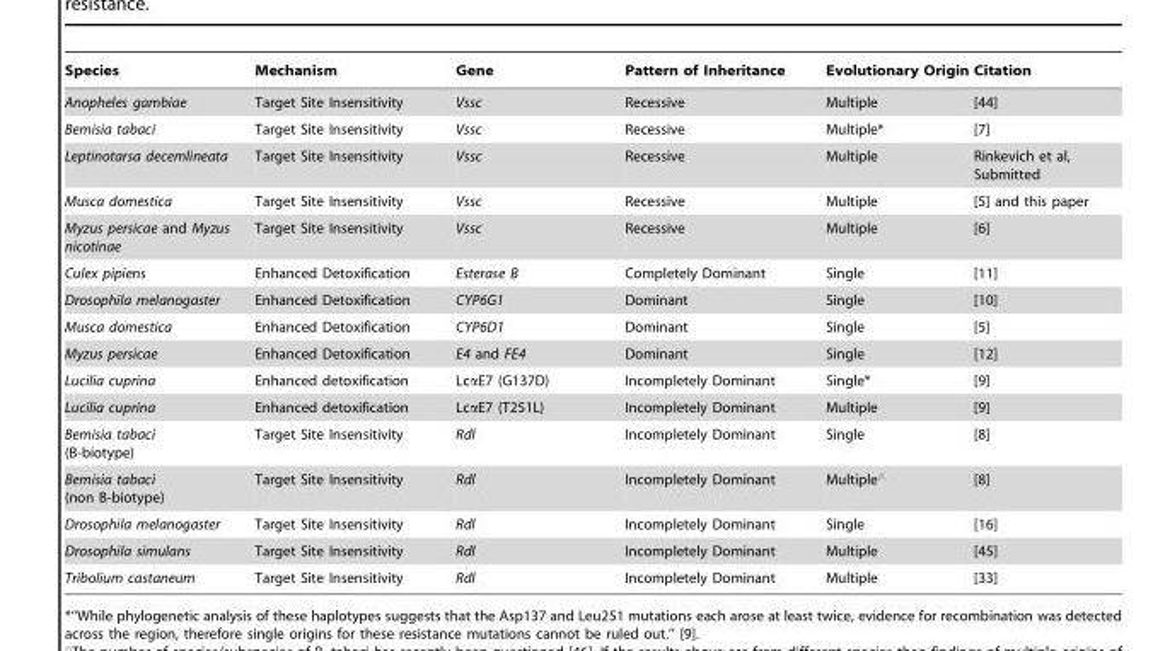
<table><thead><tr><td>Species</td><td>Mechanism</td><td>Gene</td><td>Pattern of Inheritance</td><td>Evolutionary Origin</td><td>Citation</td></tr></thead><tbody><tr><td>Anopheles gambiae</td><td>Target Site Insensitivity</td><td>Vssc</td><td>Recessive</td><td>Multiple</td><td>[44]</td></tr><tr><td>Bemisia tabaci</td><td>Target Site Insensitivity</td><td>Vssc</td><td>Recessive</td><td>Multiple*</td><td>[7]</td></tr><tr><td>Leptinotarsa decemlineata</td><td>Target Site Insensitivity</td><td>Vssc</td><td>Recessive</td><td>Multiple</td><td>Rinkevich et al, Submitted</td></tr><tr><td>Musca domestica</td><td>Target Site Insensitivity</td><td>Vssc</td><td>Recessive</td><td>Multiple</td><td>[5] and this paper</td></tr><tr><td>Myzus persicae and Myzus nicotinae</td><td>Target Site Insensitivity</td><td>Vssc</td><td>Recessive</td><td>Multiple</td><td>[6]</td></tr><tr><td>Culex pipiens</td><td>Enhanced Detoxification</td><td>Esterase B</td><td>Completely Dominant</td><td>Single</td><td>[11]</td></tr><tr><td>Drosophila melanogaster</td><td>Enhanced Detoxification</td><td>CYP6G1</td><td>Dominant</td><td>Single</td><td>[10]</td></tr><tr><td>Musca domestica</td><td>Enhanced Detoxification</td><td>CYP6D1</td><td>Dominant</td><td>Single</td><td>[5]</td></tr><tr><td>Myzus persicae</td><td>Enhanced Detoxification</td><td>E4 and FE4</td><td>Dominant</td><td>Single</td><td>[12]</td></tr><tr><td>Lucilia cuprina</td><td>Enhanced detoxification</td><td>LcαE7 (G137D)</td><td>Incompletely Dominant</td><td>Single*</td><td>[9]</td></tr><tr><td>Lucilia cuprina</td><td>Enhanced detoxification</td><td>LcαE7 (T251L)</td><td>Incompletely Dominant</td><td>Multiple</td><td>[9]</td></tr><tr><td>Bemisia tabaci (B-biotype)</td><td>Target Site Insensitivity</td><td>Rdl</td><td>Incompletely Dominant</td><td>Single</td><td>[8]</td></tr><tr><td>Bemisia tabaci (non B-biotype)</td><td>Target Site Insensitivity</td><td>Rdl</td><td>Incompletely Dominant</td><td>Multiple‘</td><td>[8]</td></tr><tr><td>Drosophila melanogaster</td><td>Target Site Insensitivity</td><td>Rdl</td><td>Incompletely Dominant</td><td>Single</td><td>[16]</td></tr><tr><td>Drosophila simulans</td><td>Target Site Insensitivity</td><td>Rdl</td><td>Incompletely Dominant</td><td>Multiple</td><td>[45]</td></tr><tr><td>Tribolium castaneum</td><td>Target Site Insensitivity</td><td>Rdl</td><td>Incompletely Dominant</td><td>Multiple</td><td>[33]</td></tr></tbody></table>